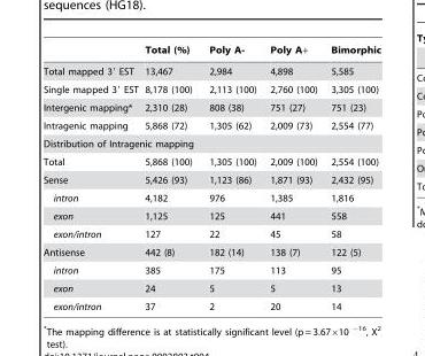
<table><thead><tr><td></td><td>Total (%)</td><td>Poly A-</td><td>Poly A+</td><td>Bimorphic</td></tr></thead><tbody><tr><td>Total mapped 3′ EST</td><td>13,467</td><td>2,984</td><td>4,898</td><td>5,585</td></tr><tr><td>Single mapped 3′ EST</td><td>8,178 (100)</td><td>2,113 (100)</td><td>2,760 (100)</td><td>3,305 (100)</td></tr><tr><td>Intergenic mapping*</td><td>2,310 (28)</td><td>808 (38)</td><td>751 (27)</td><td>751 (23)</td></tr><tr><td>Intragenic mapping</td><td>5,868 (72)</td><td>1,305 (62)</td><td>2,009 (73)</td><td>2,554 (77)</td></tr><tr><td colspan="5">Distribution of Intragenic mapping</td></tr><tr><td>Total</td><td>5,868 (100)</td><td>1,305 (100)</td><td>2,009 (100)</td><td>2,554 (100)</td></tr><tr><td>Sense</td><td>5,426 (93)</td><td>1,123 (86)</td><td>1,871 (93)</td><td>2,432 (95)</td></tr><tr><td>intron</td><td>4,182</td><td>976</td><td>1,385</td><td>1,816</td></tr><tr><td>exon</td><td>1,125</td><td>125</td><td>441</td><td>558</td></tr><tr><td>exon/intron</td><td>127</td><td>22</td><td>45</td><td>58</td></tr><tr><td>Antisense</td><td>442 (8)</td><td>182 (14)</td><td>138 (7)</td><td>122 (5)</td></tr><tr><td>intron</td><td>385</td><td>175</td><td>113</td><td>95</td></tr><tr><td>exon</td><td>24</td><td>5</td><td>5</td><td>13</td></tr><tr><td>exon/intron</td><td>37</td><td>2</td><td>20</td><td>14</td></tr></tbody></table>